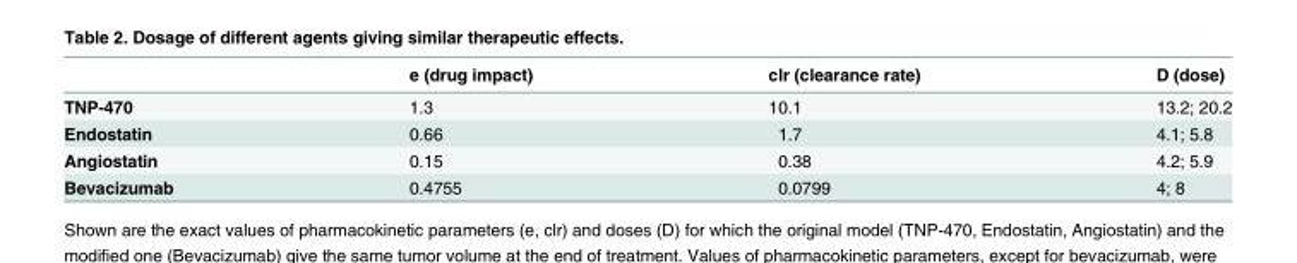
<table><thead><tr><td></td><td>e (drug impact)</td><td>clr (clearance rate)</td><td>D (dose)</td></tr></thead><tbody><tr><td>TNP-470</td><td>1.3</td><td>10.1</td><td>13.2; 20.2</td></tr><tr><td>Endostatin</td><td>0.66</td><td>1.7</td><td>4.1; 5.8</td></tr><tr><td>Angiostatin</td><td>0.15</td><td>0.38</td><td>4.2; 5.9</td></tr><tr><td>Bevacizumab</td><td>0.4755</td><td>0.0799</td><td>4; 8</td></tr></tbody></table>